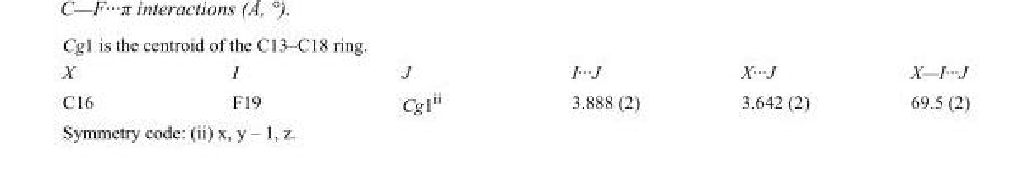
<table><tbody><tr><td>X</td><td>I</td><td>J</td><td>I···J</td><td>X···J</td><td>X—I···J</td></tr><tr><td>C16</td><td>F19</td><td>Cg1<sup>ii</sup></td><td>3.888 (2)</td><td>3.642 (2)</td><td>69.5 (2)</td></tr></tbody></table>